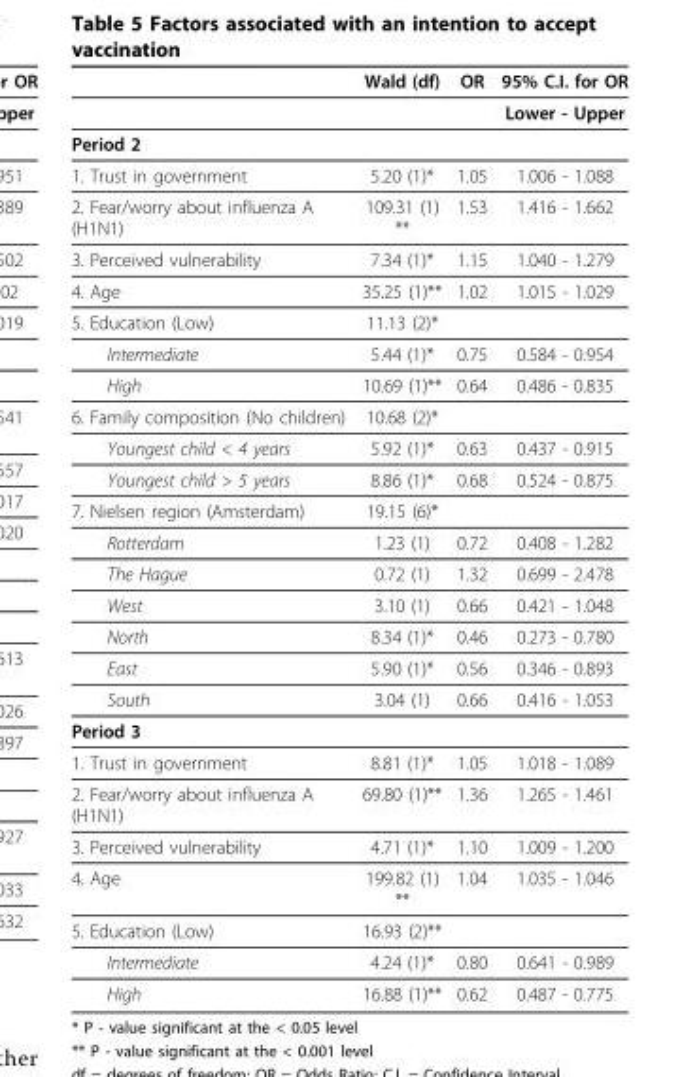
<table><thead><tr><td></td><td>Wald (df)</td><td>OR</td><td>95% C.I. for OR</td></tr></thead><tbody><tr><td></td><td></td><td></td><td>Lower - Upper</td></tr><tr><td colspan="4">Period 2</td></tr><tr><td>1. Trust in government</td><td>5.20 (1)*</td><td>1.05</td><td>1.006 - 1.088</td></tr><tr><td>2. Fear/worry about influenza A (H1N1)</td><td>109.31 (1) **</td><td>1.53</td><td>1.416 - 1.662</td></tr><tr><td>3. Perceived vulnerability</td><td>7.34 (1)*</td><td>1.15</td><td>1.040 - 1.279</td></tr><tr><td>4. Age</td><td>35.25 (1)**</td><td>1.02</td><td>1.015 - 1.029</td></tr><tr><td>5. Education (Low)</td><td>11.13 (2)*</td><td></td><td></td></tr><tr><td>Intermediate</td><td>5.44 (1)*</td><td>0.75</td><td>0.584 - 0.954</td></tr><tr><td>High</td><td>10.69 (1)**</td><td>0.64</td><td>0.486 - 0.835</td></tr><tr><td>6. Family composition (No children)</td><td>10.68 (2)*</td><td></td><td></td></tr><tr><td>Youngest child &lt; 4 years</td><td>5.92 (1)*</td><td>0.63</td><td>0.437 - 0.915</td></tr><tr><td>Youngest child &gt; 5 years</td><td>8.86 (1)*</td><td>0.68</td><td>0.524 - 0.875</td></tr><tr><td>7. Nielsen region (Amsterdam)</td><td>19.15 (6)*</td><td></td><td></td></tr><tr><td>Rotterdam</td><td>1.23 (1)</td><td>0.72</td><td>0.408 - 1.282</td></tr><tr><td>The Hague</td><td>0.72 (1)</td><td>1.32</td><td>0.699 - 2.478</td></tr><tr><td>West</td><td>3.10 (1)</td><td>0.66</td><td>0.421 - 1.048</td></tr><tr><td>North</td><td>8.34 (1)*</td><td>0.46</td><td>0.273 - 0.780</td></tr><tr><td>East</td><td>5.90 (1)*</td><td>0.56</td><td>0.346 - 0.893</td></tr><tr><td>South</td><td>3.04 (1)</td><td>0.66</td><td>0.416 - 1.053</td></tr><tr><td colspan="4">Period 3</td></tr><tr><td>1. Trust in government</td><td>8.81 (1)*</td><td>1.05</td><td>1.018 - 1.089</td></tr><tr><td>2. Fear/worry about influenza A (H1N1)</td><td>69.80 (1)**</td><td>1.36</td><td>1.265 - 1.461</td></tr><tr><td>3. Perceived vulnerability</td><td>4.71 (1)*</td><td>1.10</td><td>1.009 - 1.200</td></tr><tr><td>4. Age</td><td>199.82 (1) **</td><td>1.04</td><td>1.035 - 1.046</td></tr><tr><td>5. Education (Low)</td><td>16.93 (2)**</td><td></td><td></td></tr><tr><td>Intermediate</td><td>4.24 (1)*</td><td>0.80</td><td>0.641 - 0.989</td></tr><tr><td>High</td><td>16.88 (1)**</td><td>0.62</td><td>0.487 - 0.775</td></tr></tbody></table>